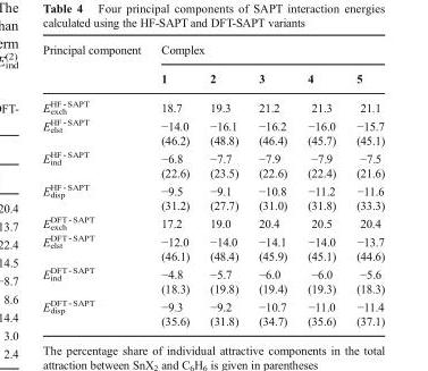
<table><thead><tr><td rowspan="2">Principal component</td><td colspan="5">Complex</td></tr><tr><td>1</td><td>2</td><td>3</td><td>4</td><td>5</td></tr></thead><tbody><tr><td>E<sub>exch</sub> <sup>HF ‐ SAPT</sup></td><td>18.7</td><td>19.3</td><td>21.2</td><td>21.3</td><td>21.1</td></tr><tr><td>E<sub>elst</sub> <sup>HF ‐ SAPT</sup></td><td>−14.0 (46.2)</td><td>−16.1 (48.8)</td><td>−16.2 (46.4)</td><td>−16.0 (45.7)</td><td>−15.7 (45.1)</td></tr><tr><td>E<sub>ind</sub> <sup>HF ‐ SAPT</sup></td><td>−6.8 (22.6)</td><td>−7.7 (23.5)</td><td>−7.9 (22.6)</td><td>−7.9 (22.4)</td><td>−7.5 (21.6)</td></tr><tr><td>E<sub>disp</sub> <sup>HF ‐ SAPT</sup></td><td>−9.5 (31.2)</td><td>−9.1 (27.7)</td><td>−10.8 (31.0)</td><td>−11.2 (31.8)</td><td>−11.6 (33.3)</td></tr><tr><td>E<sub>exch</sub> <sup>DFT‐ SAPT</sup></td><td>17.2</td><td>19.0</td><td>20.4</td><td>20.5</td><td>20.4</td></tr><tr><td>E<sub>elst</sub> <sup>DFT‐ SAPT</sup></td><td>−12.0 (46.1)</td><td>−14.0 (48.4)</td><td>−14.1 (45.9)</td><td>−14.0 (45.1)</td><td>−13.7 (44.6)</td></tr><tr><td>E<sub>ind</sub> <sup>DFT‐ SAPT</sup></td><td>−4.8 (18.3)</td><td>−5.7 (19.8)</td><td>−6.0 (19.4)</td><td>−6.0 (19.3)</td><td>−5.6 (18.3)</td></tr><tr><td>E<sub>disp</sub> <sup>DFT‐ SAPT</sup></td><td>−9.3 (35.6)</td><td>−9.2 (31.8)</td><td>−10.7 (34.7)</td><td>−11.0 (35.6)</td><td>−11.4 (37.1)</td></tr></tbody></table>